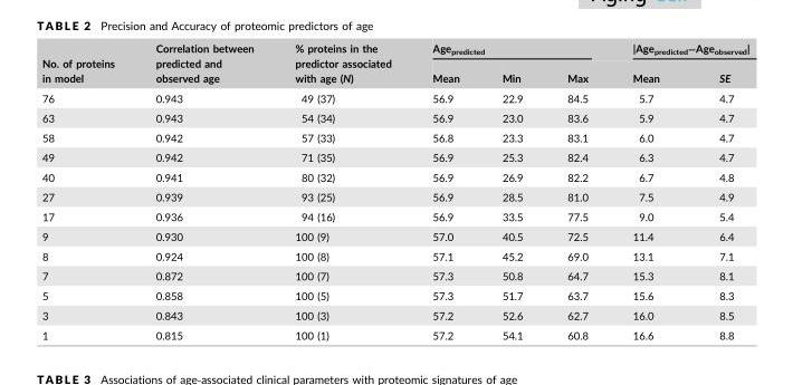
<table><thead><tr><td rowspan="2">No. of proteins in model</td><td rowspan="2">Correlation between predicted and observed age</td><td rowspan="2">% proteins in the predictor associated with age (N)</td><td colspan="3">Age<sub>predicted</sub></td><td colspan="2">|Age<sub>predicted</sub>−Age<sub>observed</sub>|</td></tr><tr><td>Mean</td><td>Min</td><td>Max</td><td>Mean</td><td>SE</td></tr></thead><tbody><tr><td>76</td><td>0.943</td><td>49 (37)</td><td>56.9</td><td>22.9</td><td>84.5</td><td>5.7</td><td>4.7</td></tr><tr><td>63</td><td>0.943</td><td>54 (34)</td><td>56.9</td><td>23.0</td><td>83.6</td><td>5.9</td><td>4.7</td></tr><tr><td>58</td><td>0.942</td><td>57 (33)</td><td>56.8</td><td>23.3</td><td>83.1</td><td>6.0</td><td>4.7</td></tr><tr><td>49</td><td>0.942</td><td>71 (35)</td><td>56.9</td><td>25.3</td><td>82.4</td><td>6.3</td><td>4.7</td></tr><tr><td>40</td><td>0.941</td><td>80 (32)</td><td>56.9</td><td>26.9</td><td>82.2</td><td>6.7</td><td>4.8</td></tr><tr><td>27</td><td>0.939</td><td>93 (25)</td><td>56.9</td><td>28.5</td><td>81.0</td><td>7.5</td><td>4.9</td></tr><tr><td>17</td><td>0.936</td><td>94 (16)</td><td>56.9</td><td>33.5</td><td>77.5</td><td>9.0</td><td>5.4</td></tr><tr><td>9</td><td>0.930</td><td>100 (9)</td><td>57.0</td><td>40.5</td><td>72.5</td><td>11.4</td><td>6.4</td></tr><tr><td>8</td><td>0.924</td><td>100 (8)</td><td>57.1</td><td>45.2</td><td>69.0</td><td>13.1</td><td>7.1</td></tr><tr><td>7</td><td>0.872</td><td>100 (7)</td><td>57.3</td><td>50.8</td><td>64.7</td><td>15.3</td><td>8.1</td></tr><tr><td>5</td><td>0.858</td><td>100 (5)</td><td>57.3</td><td>51.7</td><td>63.7</td><td>15.6</td><td>8.3</td></tr><tr><td>3</td><td>0.843</td><td>100 (3)</td><td>57.2</td><td>52.6</td><td>62.7</td><td>16.0</td><td>8.5</td></tr><tr><td>1</td><td>0.815</td><td>100 (1)</td><td>57.2</td><td>54.1</td><td>60.8</td><td>16.6</td><td>8.8</td></tr></tbody></table>